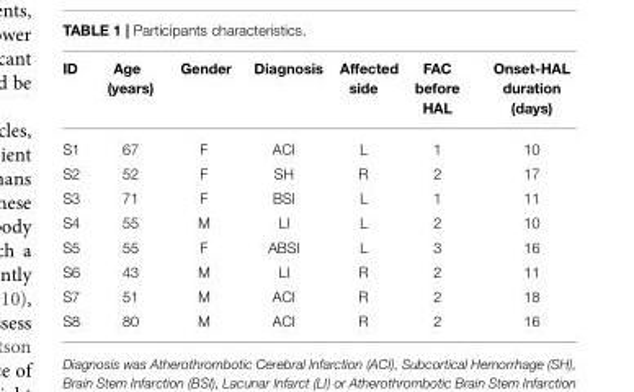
<table><thead><tr><td>ID</td><td>Age (years)</td><td>Gender</td><td>Diagnosis</td><td>Affected side</td><td>FAC before HAL</td><td>Onset-HAL duration (days)</td></tr></thead><tbody><tr><td>S1</td><td>67</td><td>F</td><td>ACI</td><td>L</td><td>1</td><td>10</td></tr><tr><td>S2</td><td>52</td><td>F</td><td>SH</td><td>R</td><td>2</td><td>17</td></tr><tr><td>S3</td><td>71</td><td>F</td><td>BSI</td><td>L</td><td>1</td><td>11</td></tr><tr><td>S4</td><td>55</td><td>M</td><td>LI</td><td>L</td><td>2</td><td>10</td></tr><tr><td>S5</td><td>55</td><td>F</td><td>ABSI</td><td>L</td><td>3</td><td>16</td></tr><tr><td>S6</td><td>43</td><td>M</td><td>LI</td><td>R</td><td>2</td><td>11</td></tr><tr><td>S7</td><td>51</td><td>M</td><td>ACI</td><td>R</td><td>2</td><td>18</td></tr><tr><td>S8</td><td>80</td><td>M</td><td>ACI</td><td>R</td><td>2</td><td>16</td></tr></tbody></table>